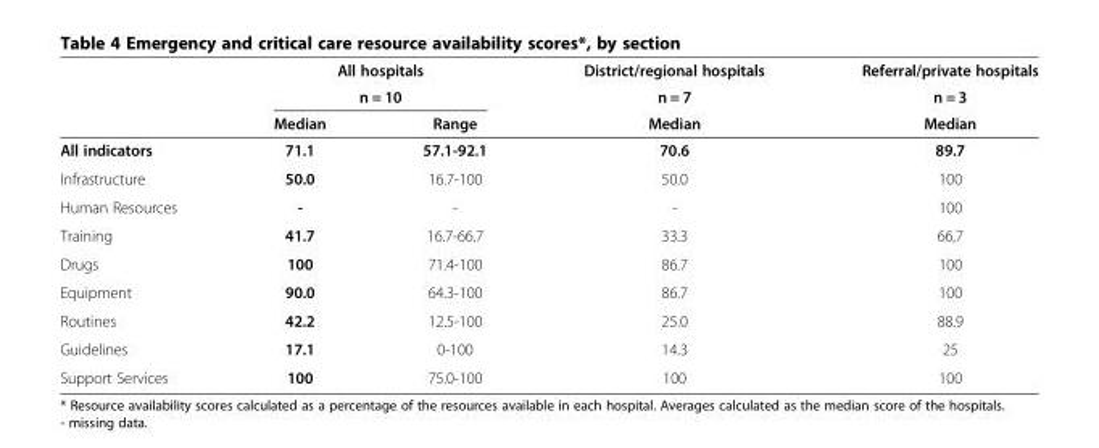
<table><thead><tr><td rowspan="3"></td><td rowspan="2" colspan="2">All hospitals n = 10</td><td rowspan="3">District/regional hospitals n = 7 Median</td><td rowspan="3">Referral/private hospitals n = 3 Median</td></tr><tr></tr><tr><td>Median</td><td>Range</td></tr></thead><tbody><tr><td>All indicators</td><td>71.1</td><td>57.1-92.1</td><td>70.6</td><td>89.7</td></tr><tr><td>Infrastructure</td><td>50.0</td><td>16.7-100</td><td>50.0</td><td>100</td></tr><tr><td>Human Resources</td><td>-</td><td>-</td><td>-</td><td>100</td></tr><tr><td>Training</td><td>41.7</td><td>16.7-66.7</td><td>33.3</td><td>66,7</td></tr><tr><td>Drugs</td><td>100</td><td>71.4-100</td><td>86.7</td><td>100</td></tr><tr><td>Equipment</td><td>90.0</td><td>64.3-100</td><td>86.7</td><td>100</td></tr><tr><td>Routines</td><td>42.2</td><td>12.5-100</td><td>25.0</td><td>88.9</td></tr><tr><td>Guidelines</td><td>17.1</td><td>0-100</td><td>14.3</td><td>25</td></tr><tr><td>Support Services</td><td>100</td><td>75.0-100</td><td>100</td><td>100</td></tr></tbody></table>